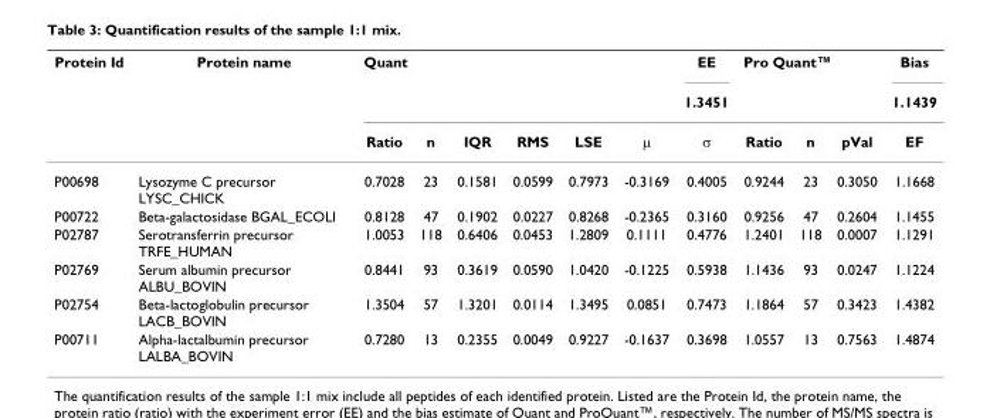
<table><thead><tr><td rowspan="3">Protein Id</td><td rowspan="3">Protein name</td><td colspan="6">Quant</td><td rowspan="3">EE 1.3451 σ</td><td colspan="3">Pro Quant™</td><td rowspan="3">Bias 1.1439 EF</td></tr><tr><td rowspan="2">Ratio</td><td rowspan="2">n</td><td rowspan="2">IQR</td><td rowspan="2">RMS</td><td rowspan="2">LSE</td><td rowspan="2">μ</td><td rowspan="2">Ratio</td><td rowspan="2">n</td><td rowspan="2">pVal</td></tr><tr></tr></thead><tbody><tr><td>P00698</td><td>Lysozyme C precursor LYSC_CHICK</td><td>0.7028</td><td>23</td><td>0.1581</td><td>0.0599</td><td>0.7973</td><td>-0.3169</td><td>0.4005</td><td>0.9244</td><td>23</td><td>0.3050</td><td>1.1668</td></tr><tr><td>P00722</td><td>Beta-galactosidase BGAL_ECOLI</td><td>0.8128</td><td>47</td><td>0.1902</td><td>0.0227</td><td>0.8268</td><td>-0.2365</td><td>0.3160</td><td>0.9256</td><td>47</td><td>0.2604</td><td>1.1455</td></tr><tr><td>P02787</td><td>Serotransferrin precursor TRFE_HUMAN</td><td>1.0053</td><td>118</td><td>0.6406</td><td>0.0453</td><td>1.2809</td><td>0.1111</td><td>0.4776</td><td>1.2401</td><td>118</td><td>0.0007</td><td>1.1291</td></tr><tr><td>P02769</td><td>Serum albumin precursor ALBU_BOVIN</td><td>0.8441</td><td>93</td><td>0.3619</td><td>0.0590</td><td>1.0420</td><td>-0.1225</td><td>0.5938</td><td>1.1436</td><td>93</td><td>0.0247</td><td>1.1224</td></tr><tr><td>P02754</td><td>Beta-lactoglobulin precursor LACB_BOVIN</td><td>1.3504</td><td>57</td><td>1.3201</td><td>0.0114</td><td>1.3495</td><td>0.0851</td><td>0.7473</td><td>1.1864</td><td>57</td><td>0.3423</td><td>1.4382</td></tr><tr><td>P00711</td><td>Alpha-lactalbumin precursor LALBA_BOVIN</td><td>0.7280</td><td>13</td><td>0.2355</td><td>0.0049</td><td>0.9227</td><td>-0.1637</td><td>0.3698</td><td>1.0557</td><td>13</td><td>0.7563</td><td>1.4874</td></tr></tbody></table>